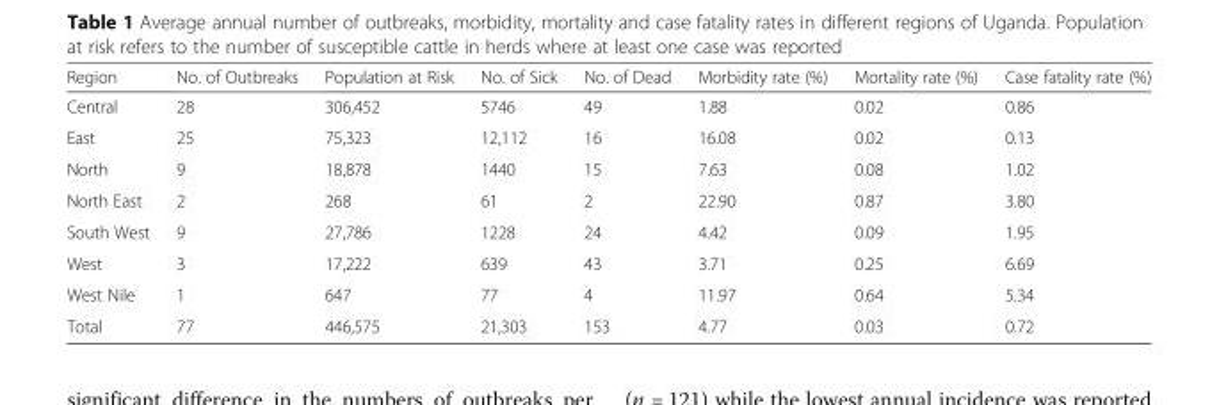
<table><thead><tr><td>Region</td><td>No. of Outbreaks</td><td>Population at Risk</td><td>No. of Sick</td><td>No. of Dead</td><td>Morbidity rate (%)</td><td>Mortality rate (%)</td><td>Case fatality rate (%)</td></tr></thead><tbody><tr><td>Central</td><td>28</td><td>306,452</td><td>5746</td><td>49</td><td>1.88</td><td>0.02</td><td>0.86</td></tr><tr><td>East</td><td>25</td><td>75,323</td><td>12,112</td><td>16</td><td>16.08</td><td>0.02</td><td>0.13</td></tr><tr><td>North</td><td>9</td><td>18,878</td><td>1440</td><td>15</td><td>7.63</td><td>0.08</td><td>1.02</td></tr><tr><td>North East</td><td>2</td><td>268</td><td>61</td><td>2</td><td>22.90</td><td>0.87</td><td>3.80</td></tr><tr><td>South West</td><td>9</td><td>27,786</td><td>1228</td><td>24</td><td>4.42</td><td>0.09</td><td>1.95</td></tr><tr><td>West</td><td>3</td><td>17,222</td><td>639</td><td>43</td><td>3.71</td><td>0.25</td><td>6.69</td></tr><tr><td>West Nile</td><td>1</td><td>647</td><td>77</td><td>4</td><td>11.97</td><td>0.64</td><td>5.34</td></tr><tr><td>Total</td><td>77</td><td>446,575</td><td>21,303</td><td>153</td><td>4.77</td><td>0.03</td><td>0.72</td></tr></tbody></table>